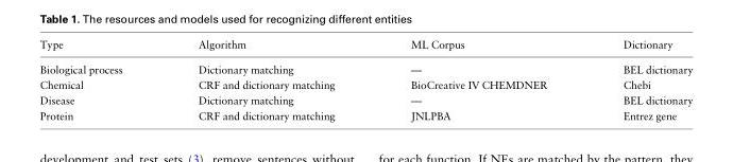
<table><thead><tr><td>Type</td><td>Algorithm</td><td>ML Corpus</td><td>Dictionary</td></tr></thead><tbody><tr><td>Biological process</td><td>Dictionary matching</td><td>—</td><td>BEL dictionary</td></tr><tr><td>Chemical</td><td>CRF and dictionary matching</td><td>BioCreative IV CHEMDNER</td><td>Chebi</td></tr><tr><td>Disease</td><td>Dictionary matching</td><td>—</td><td>BEL dictionary</td></tr><tr><td>Protein</td><td>CRF and dictionary matching</td><td>JNLPBA</td><td>Entrez gene</td></tr></tbody></table>